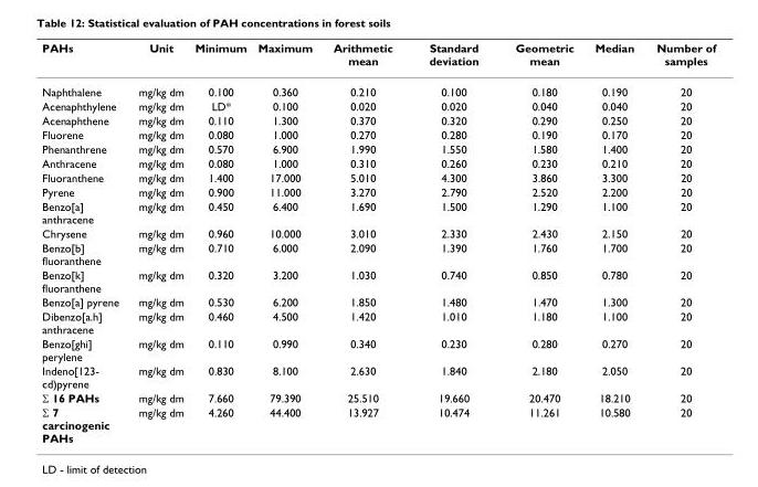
<table><thead><tr><td>PAHs</td><td>Unit</td><td>Minimum</td><td>Maximum</td><td>Arithmetic mean</td><td>Standard deviation</td><td>Geometric mean</td><td>Median</td><td>Number of samples</td></tr></thead><tbody><tr><td>Naphthalene</td><td>mg/kg dm</td><td>0.100</td><td>0.360</td><td>0.210</td><td>0.100</td><td>0.180</td><td>0.190</td><td>20</td></tr><tr><td>Acenaphthylene</td><td>mg/kg dm</td><td>LD*</td><td>0.100</td><td>0.020</td><td>0.020</td><td>0.040</td><td>0.040</td><td>20</td></tr><tr><td>Acenaphthene</td><td>mg/kg dm</td><td>0.110</td><td>1.300</td><td>0.370</td><td>0.320</td><td>0.290</td><td>0.250</td><td>20</td></tr><tr><td>Fluorene</td><td>mg/kg dm</td><td>0.080</td><td>1.000</td><td>0.270</td><td>0.280</td><td>0.190</td><td>0.170</td><td>20</td></tr><tr><td>Phenanthrene</td><td>mg/kg dm</td><td>0.570</td><td>6.900</td><td>1.990</td><td>1.550</td><td>1.580</td><td>1.400</td><td>20</td></tr><tr><td>Anthracene</td><td>mg/kg dm</td><td>0.080</td><td>1.000</td><td>0.310</td><td>0.260</td><td>0.230</td><td>0.210</td><td>20</td></tr><tr><td>Fluoranthene</td><td>mg/kg dm</td><td>1.400</td><td>17.000</td><td>5.010</td><td>4.300</td><td>3.860</td><td>3.300</td><td>20</td></tr><tr><td>Pyrene</td><td>mg/kg dm</td><td>0.900</td><td>11.000</td><td>3.270</td><td>2.790</td><td>2.520</td><td>2.200</td><td>20</td></tr><tr><td>Benzo[a] anthracene</td><td>mg/kg dm</td><td>0.450</td><td>6.400</td><td>1.690</td><td>1.500</td><td>1.290</td><td>1.100</td><td>20</td></tr><tr><td>Chrysene</td><td>mg/kg dm</td><td>0.960</td><td>10.000</td><td>3.010</td><td>2.330</td><td>2.430</td><td>2.150</td><td>20</td></tr><tr><td>Benzo[b] fluoranthene</td><td>mg/kg dm</td><td>0.710</td><td>6.000</td><td>2.090</td><td>1.390</td><td>1.760</td><td>1.700</td><td>20</td></tr><tr><td>Benzo[k] fluoranthene</td><td>mg/kg dm</td><td>0.320</td><td>3.200</td><td>1.030</td><td>0.740</td><td>0.850</td><td>0.780</td><td>20</td></tr><tr><td>Benzo[a] pyrene</td><td>mg/kg dm</td><td>0.530</td><td>6.200</td><td>1.850</td><td>1.480</td><td>1.470</td><td>1.300</td><td>20</td></tr><tr><td>Dibenzo[a.h] anthracene</td><td>mg/kg dm</td><td>0.460</td><td>4.500</td><td>1.420</td><td>1.010</td><td>1.180</td><td>1.100</td><td>20</td></tr><tr><td>Benzo[ghi] perylene</td><td>mg/kg dm</td><td>0.110</td><td>0.990</td><td>0.340</td><td>0.230</td><td>0.280</td><td>0.270</td><td>20</td></tr><tr><td>Indeno[123- cd)pyrene</td><td>mg/kg dm</td><td>0.830</td><td>8.100</td><td>2.630</td><td>1.840</td><td>2.180</td><td>2.050</td><td>20</td></tr><tr><td>Σ 16 PAHs</td><td>mg/kg dm</td><td>7.660</td><td>79.390</td><td>25.510</td><td>19.660</td><td>20.470</td><td>18.210</td><td>20</td></tr><tr><td>Σ 7 carcinogenic PAHs</td><td>mg/kg dm</td><td>4.260</td><td>44.400</td><td>13.927</td><td>10.474</td><td>11.261</td><td>10.580</td><td>20</td></tr></tbody></table>